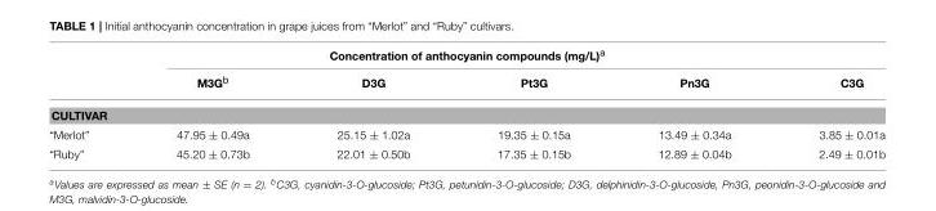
<table><thead><tr><td colspan="6">Concentration of anthocyanin compounds (mg/L)<sup>a</sup></td></tr><tr><td></td><td>M3G<sup>b</sup></td><td>D3G</td><td>Pt3G</td><td>Pn3G</td><td>C3G</td></tr></thead><tbody><tr><td colspan="6">CULTIVAR</td></tr><tr><td>“Merlot”</td><td>47.95 ± 0.49a</td><td>25.15 ± 1.02a</td><td>19.35 ± 0.15a</td><td>13.49 ± 0.34a</td><td>3.85 ± 0.01a</td></tr><tr><td>“Ruby”</td><td>45.20 ± 0.73b</td><td>22.01 ± 0.50b</td><td>17.35 ± 0.15b</td><td>12.89 ± 0.04b</td><td>2.49 ± 0.01b</td></tr></tbody></table>